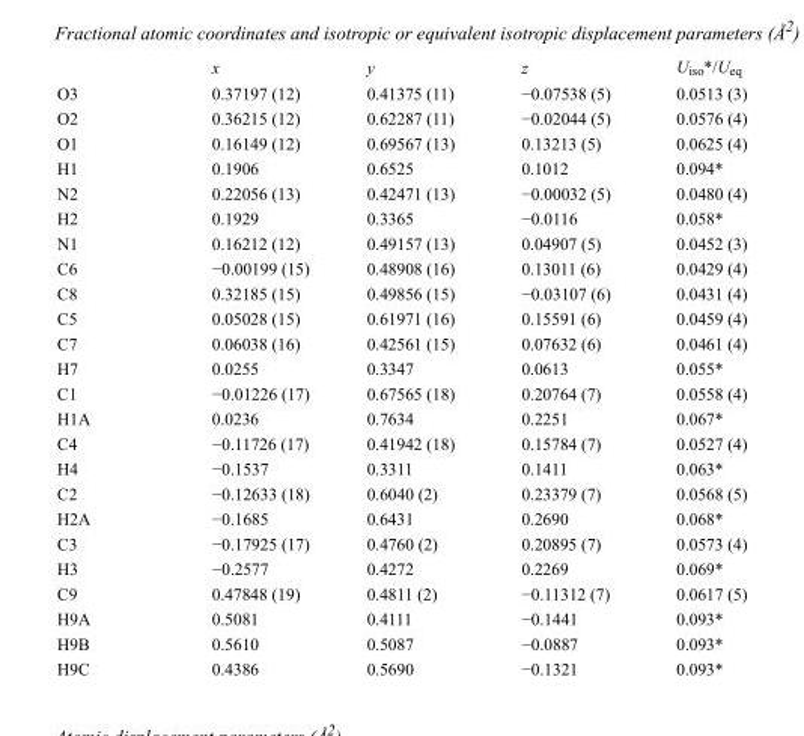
<table><thead><tr><td></td><td>x</td><td>y</td><td>z</td><td>U<sub>iso</sub>*/U<sub>eq</sub></td></tr></thead><tbody><tr><td>O3</td><td>0.37197 (12)</td><td>0.41375 (11)</td><td>−0.07538 (5)</td><td>0.0513 (3)</td></tr><tr><td>O2</td><td>0.36215 (12)</td><td>0.62287 (11)</td><td>−0.02044 (5)</td><td>0.0576 (4)</td></tr><tr><td>O1</td><td>0.16149 (12)</td><td>0.69567 (13)</td><td>0.13213 (5)</td><td>0.0625 (4)</td></tr><tr><td>H1</td><td>0.1906</td><td>0.6525</td><td>0.1012</td><td>0.094*</td></tr><tr><td>N2</td><td>0.22056 (13)</td><td>0.42471 (13)</td><td>−0.00032 (5)</td><td>0.0480 (4)</td></tr><tr><td>H2</td><td>0.1929</td><td>0.3365</td><td>−0.0116</td><td>0.058*</td></tr><tr><td>N1</td><td>0.16212 (12)</td><td>0.49157 (13)</td><td>0.04907 (5)</td><td>0.0452 (3)</td></tr><tr><td>C6</td><td>−0.00199 (15)</td><td>0.48908 (16)</td><td>0.13011 (6)</td><td>0.0429 (4)</td></tr><tr><td>C8</td><td>0.32185 (15)</td><td>0.49856 (15)</td><td>−0.03107 (6)</td><td>0.0431 (4)</td></tr><tr><td>C5</td><td>0.05028 (15)</td><td>0.61971 (16)</td><td>0.15591 (6)</td><td>0.0459 (4)</td></tr><tr><td>C7</td><td>0.06038 (16)</td><td>0.42561 (15)</td><td>0.07632 (6)</td><td>0.0461 (4)</td></tr><tr><td>H7</td><td>0.0255</td><td>0.3347</td><td>0.0613</td><td>0.055*</td></tr><tr><td>C1</td><td>−0.01226 (17)</td><td>0.67565 (18)</td><td>0.20764 (7)</td><td>0.0558 (4)</td></tr><tr><td>H1A</td><td>0.0236</td><td>0.7634</td><td>0.2251</td><td>0.067*</td></tr><tr><td>C4</td><td>−0.11726 (17)</td><td>0.41942 (18)</td><td>0.15784 (7)</td><td>0.0527 (4)</td></tr><tr><td>H4</td><td>−0.1537</td><td>0.3311</td><td>0.1411</td><td>0.063*</td></tr><tr><td>C2</td><td>−0.12633 (18)</td><td>0.6040 (2)</td><td>0.23379 (7)</td><td>0.0568 (5)</td></tr><tr><td>H2A</td><td>−0.1685</td><td>0.6431</td><td>0.2690</td><td>0.068*</td></tr><tr><td>C3</td><td>−0.17925 (17)</td><td>0.4760 (2)</td><td>0.20895 (7)</td><td>0.0573 (4)</td></tr><tr><td>H3</td><td>−0.2577</td><td>0.4272</td><td>0.2269</td><td>0.069*</td></tr><tr><td>C9</td><td>0.47848 (19)</td><td>0.4811 (2)</td><td>−0.11312 (7)</td><td>0.0617 (5)</td></tr><tr><td>H9A</td><td>0.5081</td><td>0.4111</td><td>−0.1441</td><td>0.093*</td></tr><tr><td>H9B</td><td>0.5610</td><td>0.5087</td><td>−0.0887</td><td>0.093*</td></tr><tr><td>H9C</td><td>0.4386</td><td>0.5690</td><td>−0.1321</td><td>0.093*</td></tr></tbody></table>